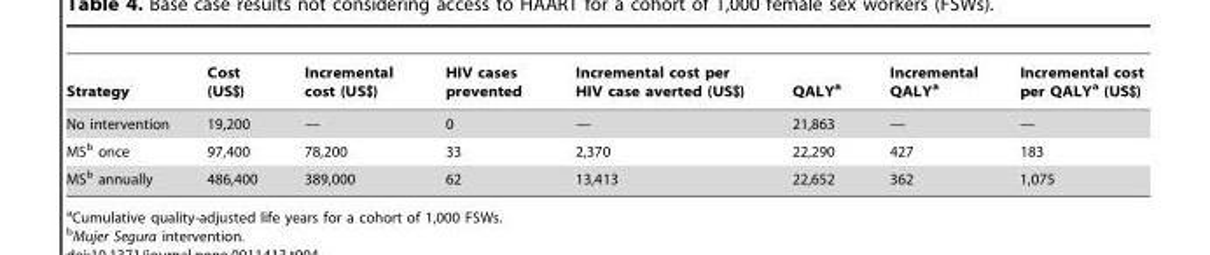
<table><thead><tr><td>Strategy</td><td>Cost (US$)</td><td>Incremental cost (US$)</td><td>HIV cases prevented</td><td>Incremental cost per HIV case averted (US$)</td><td>QALY<sup>a</sup></td><td>Incremental QALY<sup>a</sup></td><td>Incremental cost per QALY<sup>a</sup> (US$)</td></tr></thead><tbody><tr><td>No intervention</td><td>19,200</td><td>—</td><td>0</td><td>—</td><td>21,863</td><td>—</td><td>—</td></tr><tr><td>MS<sup>b</sup> once</td><td>97,400</td><td>78,200</td><td>33</td><td>2,370</td><td>22,290</td><td>427</td><td>183</td></tr><tr><td>MS<sup>b</sup> annually</td><td>486,400</td><td>389,000</td><td>62</td><td>13,413</td><td>22,652</td><td>362</td><td>1,075</td></tr></tbody></table>